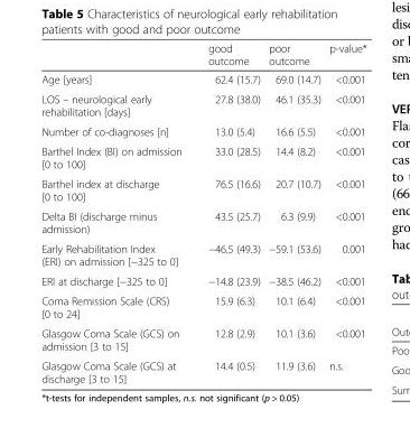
<table><thead><tr><td></td><td>good outcome</td><td>poor outcome</td><td>p-value*</td></tr></thead><tbody><tr><td>Age [years]</td><td>62.4 (15.7)</td><td>69.0 (14.7)</td><td>&lt;0.001</td></tr><tr><td>LOS – neurological early rehabilitation [days]</td><td>27.8 (38.0)</td><td>46.1 (35.3)</td><td>&lt;0.001</td></tr><tr><td>Number of co-diagnoses [n]</td><td>13.0 (5.4)</td><td>16.6 (5.5)</td><td>&lt;0.001</td></tr><tr><td>Barthel Index (BI) on admission [0 to 100]</td><td>33.0 (28.5)</td><td>14.4 (8.2)</td><td>&lt;0.001</td></tr><tr><td>Barthel index at discharge [0 to 100]</td><td>76.5 (16.6)</td><td>20.7 (10.7)</td><td>&lt;0.001</td></tr><tr><td>Delta BI (discharge minus admission)</td><td>43.5 (25.7)</td><td>6.3 (9.9)</td><td>&lt;0.001</td></tr><tr><td>Early Rehabilitation Index (ERI) on admission [−325 to 0]</td><td>−46.5 (49.3)</td><td>−59.1 (53.6)</td><td>0.001</td></tr><tr><td>ERI at discharge [−325 to 0]</td><td>−14.8 (23.9)</td><td>−38.5 (46.2)</td><td>&lt;0.001</td></tr><tr><td>Coma Remission Scale (CRS) [0 to 24]</td><td>15.9 (6.3)</td><td>10.1 (6.4)</td><td>&lt;0.001</td></tr><tr><td>Glasgow Coma Scale (GCS) on admission [3 to 15]</td><td>12.8 (2.9)</td><td>10.1 (3.6)</td><td>&lt;0.001</td></tr><tr><td>Glasgow Coma Scale (GCS) at discharge [3 to 15]</td><td>14.4 (0.5)</td><td>11.9 (3.6)</td><td>n.s.</td></tr></tbody></table>